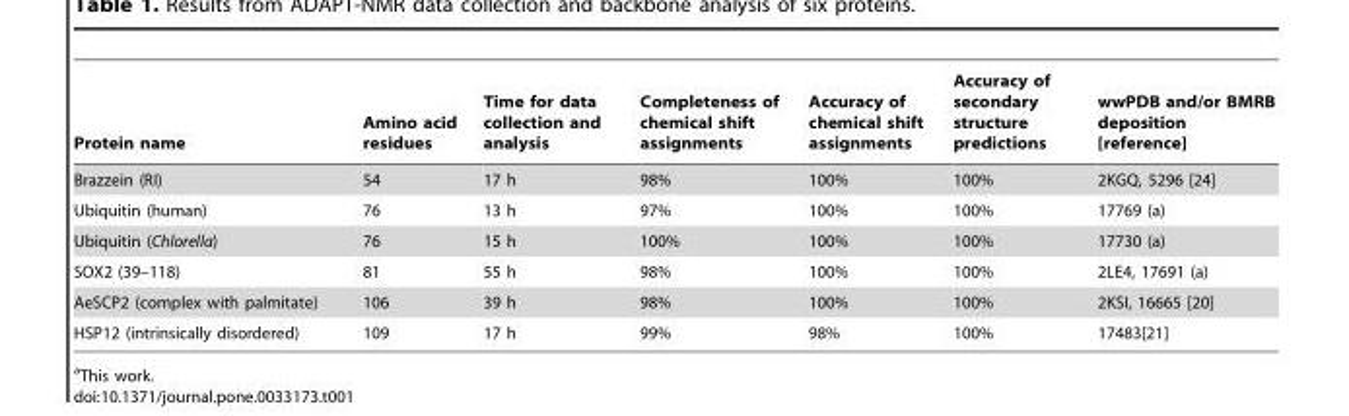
<table><thead><tr><td>Protein name</td><td>Amino acid residues</td><td>Time for data collection and analysis</td><td>Completeness of chemical shift assignments</td><td>Accuracy of chemical shift assignments</td><td>Accuracy of secondary structure predictions</td><td>wwPDB and/or BMRB deposition [reference]</td></tr></thead><tbody><tr><td>Brazzein (RI)</td><td>54</td><td>17 h</td><td>98%</td><td>100%</td><td>100%</td><td>2KGQ, 5296 [24]</td></tr><tr><td>Ubiquitin (human)</td><td>76</td><td>13 h</td><td>97%</td><td>100%</td><td>100%</td><td>17769 (a)</td></tr><tr><td>Ubiquitin (Chlorella)</td><td>76</td><td>15 h</td><td>100%</td><td>100%</td><td>100%</td><td>17730 (a)</td></tr><tr><td>SOX2 (39–118)</td><td>81</td><td>55 h</td><td>98%</td><td>100%</td><td>100%</td><td>2LE4, 17691 (a)</td></tr><tr><td>AeSCP2 (complex with palmitate)</td><td>106</td><td>39 h</td><td>98%</td><td>100%</td><td>100%</td><td>2KSI, 16665 [20]</td></tr><tr><td>HSP12 (intrinsically disordered)</td><td>109</td><td>17 h</td><td>99%</td><td>98%</td><td>100%</td><td>17483[21]</td></tr></tbody></table>